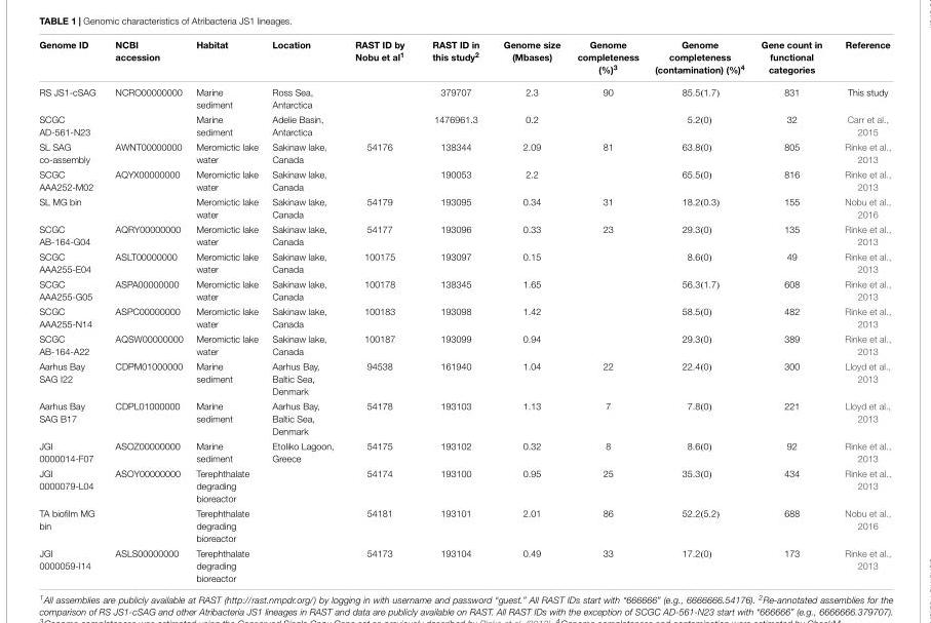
<table><thead><tr><td>Genome ID</td><td>NCBI accession</td><td>Habitat</td><td>Location</td><td>RAST ID by Nobu et al<sup>1</sup></td><td>RAST ID in this study<sup>2</sup></td><td>Genome size (Mbases)</td><td>Genome completeness (%)<sup>3</sup></td><td>Genome completeness (contamination) (%)<sup>4</sup></td><td>Gene count in functional categories</td><td>Reference</td></tr></thead><tbody><tr><td>RS JS1-cSAG</td><td>NCRO00000000</td><td>Marine sediment</td><td>Ross Sea, Antarctica</td><td></td><td>379707</td><td>2.3</td><td>90</td><td>85.5(1.7)</td><td>831</td><td>This study</td></tr><tr><td>SCGC AD-561-N23</td><td></td><td>Marine sediment</td><td>Adelie Basin, Antarctica</td><td></td><td>1476961.3</td><td>0.2</td><td></td><td>5.2(0)</td><td>32</td><td>Carr et al., 2015</td></tr><tr><td>SL SAG co-assembly</td><td>AWNT00000000</td><td>Meromictic lake water</td><td>Sakinaw lake, Canada</td><td>54176</td><td>138344</td><td>2.09</td><td>81</td><td>63.8(0)</td><td>805</td><td>Rinke et al., 2013</td></tr><tr><td>SCGC AAA252-M02</td><td>AQYX00000000</td><td>Meromictic lake water</td><td>Sakinaw lake, Canada</td><td></td><td>190053</td><td>2.2</td><td></td><td>65.5(0)</td><td>816</td><td>Rinke et al., 2013</td></tr><tr><td>SL MG bin</td><td></td><td>Meromictic lake water</td><td>Sakinaw lake, Canada</td><td>54179</td><td>193095</td><td>0.34</td><td>31</td><td>18.2(0.3)</td><td>155</td><td>Nobu et al., 2016</td></tr><tr><td>SCGC AB-164-G04</td><td>AQRY00000000</td><td>Meromictic lake water</td><td>Sakinaw lake, Canada</td><td>54177</td><td>193096</td><td>0.33</td><td>23</td><td>29.3(0)</td><td>135</td><td>Rinke et al., 2013</td></tr><tr><td>SCGC AAA255-E04</td><td>ASLT00000000</td><td>Meromictic lake water</td><td>Sakinaw lake, Canada</td><td>100175</td><td>193097</td><td>0.15</td><td></td><td>8.6(0)</td><td>49</td><td>Rinke et al., 2013</td></tr><tr><td>SCGC AAA255-G05</td><td>ASPA00000000</td><td>Meromictic lake water</td><td>Sakinaw lake, Canada</td><td>100178</td><td>138345</td><td>1.65</td><td></td><td>56.3(1.7)</td><td>608</td><td>Rinke et al., 2013</td></tr><tr><td>SCGC AAA255-N14</td><td>ASPC00000000</td><td>Meromictic lake water</td><td>Sakinaw lake, Canada</td><td>100183</td><td>193098</td><td>1.42</td><td></td><td>58.5(0)</td><td>482</td><td>Rinke et al., 2013</td></tr><tr><td>SCGC AB-164-A22</td><td>AQSW00000000</td><td>Meromictic lake water</td><td>Sakinaw lake, Canada</td><td>100187</td><td>193099</td><td>0.94</td><td></td><td>29.3(0)</td><td>389</td><td>Rinke et al., 2013</td></tr><tr><td>Aarhus Bay SAG I22</td><td>CDPM01000000</td><td>Marine sediment</td><td>Aarhus Bay, Baltic Sea, Denmark</td><td>94538</td><td>161940</td><td>1.04</td><td>22</td><td>22.4(0)</td><td>300</td><td>Lloyd et al., 2013</td></tr><tr><td>Aarhus Bay SAG B17</td><td>CDPL01000000</td><td>Marine sediment</td><td>Aarhus Bay, Baltic Sea, Denmark</td><td>54178</td><td>193103</td><td>1.13</td><td>7</td><td>7.8(0)</td><td>221</td><td>Lloyd et al., 2013</td></tr><tr><td>JGI 0000014-F07</td><td>ASOZ00000000</td><td>Marine sediment</td><td>Etoliko Lagoon, Greece</td><td>54175</td><td>193102</td><td>0.32</td><td>8</td><td>8.6(0)</td><td>92</td><td>Rinke et al., 2013</td></tr><tr><td>JGI 0000079-L04</td><td>ASOY00000000</td><td>Terephthalate degrading bioreactor</td><td></td><td>54174</td><td>193100</td><td>0.95</td><td>25</td><td>35.3(0)</td><td>434</td><td>Rinke et al., 2013</td></tr><tr><td>TA biofilm MG bin</td><td></td><td>Terephthalate degrading bioreactor</td><td></td><td>54181</td><td>193101</td><td>2.01</td><td>86</td><td>52.2(5.2)</td><td>688</td><td>Nobu et al., 2016</td></tr><tr><td>JGI 0000059-I14</td><td>ASLS00000000</td><td>Terephthalate degrading bioreactor</td><td></td><td>54173</td><td>193104</td><td>0.49</td><td>33</td><td>17.2(0)</td><td>173</td><td>Rinke et al., 2013</td></tr></tbody></table>